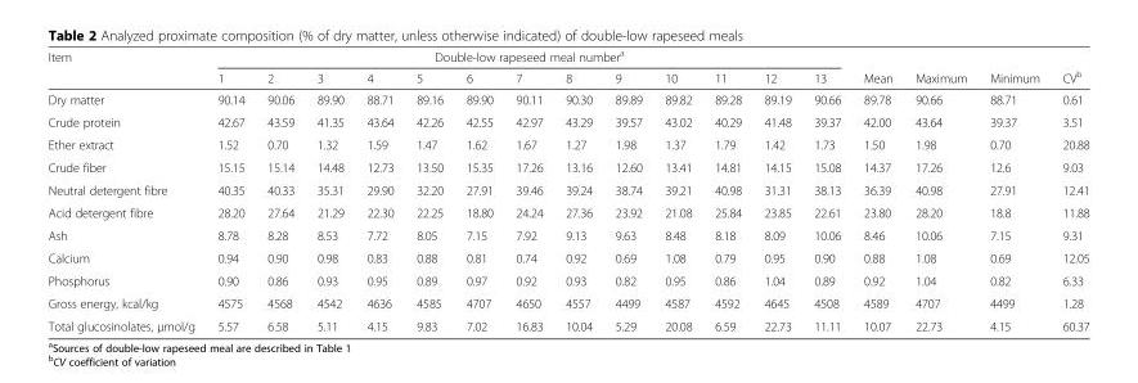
<table><thead><tr><td rowspan="2">Item</td><td colspan="13">Double-low rapeseed meal number<sup>a</sup></td><td rowspan="2">Mean</td><td rowspan="2">Maximum</td><td rowspan="2">Minimum</td><td rowspan="2">CV<sup>b</sup></td></tr><tr><td>1</td><td>2</td><td>3</td><td>4</td><td>5</td><td>6</td><td>7</td><td>8</td><td>9</td><td>10</td><td>11</td><td>12</td><td>13</td></tr></thead><tbody><tr><td>Dry matter</td><td>90.14</td><td>90.06</td><td>89.90</td><td>88.71</td><td>89.16</td><td>89.90</td><td>90.11</td><td>90.30</td><td>89.89</td><td>89.82</td><td>89.28</td><td>89.19</td><td>90.66</td><td>89.78</td><td>90.66</td><td>88.71</td><td>0.61</td></tr><tr><td>Crude protein</td><td>42.67</td><td>43.59</td><td>41.35</td><td>43.64</td><td>42.26</td><td>42.55</td><td>42.97</td><td>43.29</td><td>39.57</td><td>43.02</td><td>40.29</td><td>41.48</td><td>39.37</td><td>42.00</td><td>43.64</td><td>39.37</td><td>3.51</td></tr><tr><td>Ether extract</td><td>1.52</td><td>0.70</td><td>1.32</td><td>1.59</td><td>1.47</td><td>1.62</td><td>1.67</td><td>1.27</td><td>1.98</td><td>1.37</td><td>1.79</td><td>1.42</td><td>1.73</td><td>1.50</td><td>1.98</td><td>0.70</td><td>20.88</td></tr><tr><td>Crude fiber</td><td>15.15</td><td>15.14</td><td>14.48</td><td>12.73</td><td>13.50</td><td>15.35</td><td>17.26</td><td>13.16</td><td>12.60</td><td>13.41</td><td>14.81</td><td>14.15</td><td>15.08</td><td>14.37</td><td>17.26</td><td>12.6</td><td>9.03</td></tr><tr><td>Neutral detergent fibre</td><td>40.35</td><td>40.33</td><td>35.31</td><td>29.90</td><td>32.20</td><td>27.91</td><td>39.46</td><td>39.24</td><td>38.74</td><td>39.21</td><td>40.98</td><td>31.31</td><td>38.13</td><td>36.39</td><td>40.98</td><td>27.91</td><td>12.41</td></tr><tr><td>Acid detergent fibre</td><td>28.20</td><td>27.64</td><td>21.29</td><td>22.30</td><td>22.25</td><td>18.80</td><td>24.24</td><td>27.36</td><td>23.92</td><td>21.08</td><td>25.84</td><td>23.85</td><td>22.61</td><td>23.80</td><td>28.20</td><td>18.8</td><td>11.88</td></tr><tr><td>Ash</td><td>8.78</td><td>8.28</td><td>8.53</td><td>7.72</td><td>8.05</td><td>7.15</td><td>7.92</td><td>9.13</td><td>9.63</td><td>8.48</td><td>8.18</td><td>8.09</td><td>10.06</td><td>8.46</td><td>10.06</td><td>7.15</td><td>9.31</td></tr><tr><td>Calcium</td><td>0.94</td><td>0.90</td><td>0.98</td><td>0.83</td><td>0.88</td><td>0.81</td><td>0.74</td><td>0.92</td><td>0.69</td><td>1.08</td><td>0.79</td><td>0.95</td><td>0.90</td><td>0.88</td><td>1.08</td><td>0.69</td><td>12.05</td></tr><tr><td>Phosphorus</td><td>0.90</td><td>0.86</td><td>0.93</td><td>0.95</td><td>0.89</td><td>0.97</td><td>0.92</td><td>0.93</td><td>0.82</td><td>0.95</td><td>0.86</td><td>1.04</td><td>0.89</td><td>0.92</td><td>1.04</td><td>0.82</td><td>6.33</td></tr><tr><td>Gross energy, kcal/kg</td><td>4575</td><td>4568</td><td>4542</td><td>4636</td><td>4585</td><td>4707</td><td>4650</td><td>4557</td><td>4499</td><td>4587</td><td>4592</td><td>4645</td><td>4508</td><td>4589</td><td>4707</td><td>4499</td><td>1.28</td></tr><tr><td>Total glucosinolates, μmol/g</td><td>5.57</td><td>6.58</td><td>5.11</td><td>4.15</td><td>9.83</td><td>7.02</td><td>16.83</td><td>10.04</td><td>5.29</td><td>20.08</td><td>6.59</td><td>22.73</td><td>11.11</td><td>10.07</td><td>22.73</td><td>4.15</td><td>60.37</td></tr></tbody></table>